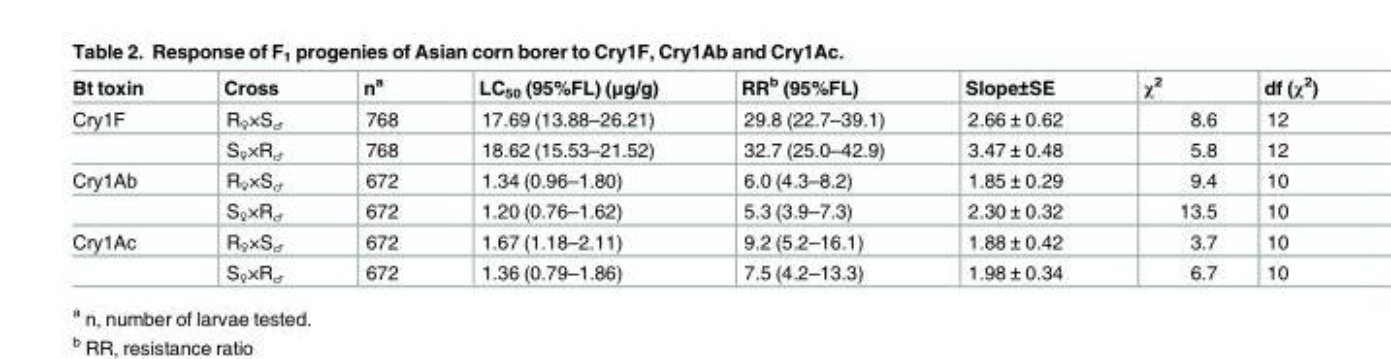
<table><thead><tr><td>Bt toxin</td><td>Cross</td><td>n<sup>a</sup></td><td>LC<sub>50</sub> (95%FL) (μg/g)</td><td>RR<sup>b</sup> (95%FL)</td><td>Slope±SE</td><td>χ<sup>2</sup></td><td>df (χ<sup>2</sup>)</td></tr></thead><tbody><tr><td rowspan="2">Cry1F</td><td>R<sub>♀</sub>×S<sub>♂</sub></td><td>768</td><td>17.69 (13.88–26.21)</td><td>29.8 (22.7–39.1)</td><td>2.66 ± 0.62</td><td>8.6</td><td>12</td></tr><tr><td>S<sub>♀</sub>×R<sub>♂</sub></td><td>768</td><td>18.62 (15.53–21.52)</td><td>32.7 (25.0–42.9)</td><td>3.47 ± 0.48</td><td>5.8</td><td>12</td></tr><tr><td rowspan="2">Cry1Ab</td><td>R<sub>♀</sub>×S<sub>♂</sub></td><td>672</td><td>1.34 (0.96–1.80)</td><td>6.0 (4.3–8.2)</td><td>1.85 ± 0.29</td><td>9.4</td><td>10</td></tr><tr><td>S<sub>♀</sub>×R<sub>♂</sub></td><td>672</td><td>1.20 (0.76–1.62)</td><td>5.3 (3.9–7.3)</td><td>2.30 ± 0.32</td><td>13.5</td><td>10</td></tr><tr><td rowspan="2">Cry1Ac</td><td>R<sub>♀</sub>×S<sub>♂</sub></td><td>672</td><td>1.67 (1.18–2.11)</td><td>9.2 (5.2–16.1)</td><td>1.88 ± 0.42</td><td>3.7</td><td>10</td></tr><tr><td>S<sub>♀</sub>×R<sub>♂</sub></td><td>672</td><td>1.36 (0.79–1.86)</td><td>7.5 (4.2–13.3)</td><td>1.98 ± 0.34</td><td>6.7</td><td>10</td></tr></tbody></table>